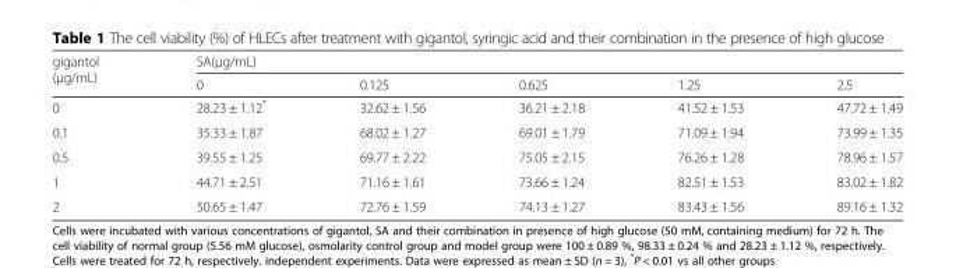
<table><thead><tr><td rowspan="2">gigantol (μg/mL)</td><td colspan="5">SA(μg/mL)</td></tr><tr><td>0</td><td>0.125</td><td>0.625</td><td>1.25</td><td>2.5</td></tr></thead><tbody><tr><td>0</td><td>28.23 ± 1.12*</td><td>32.62 ± 1.56</td><td>36.21 ± 2.18</td><td>41.52 ± 1.53</td><td>47.72 ± 1.49</td></tr><tr><td>0.1</td><td>35.33 ± 1.87</td><td>68.02 ± 1.27</td><td>69.01 ± 1.79</td><td>71.09 ± 1.94</td><td>73.99 ± 1.35</td></tr><tr><td>0.5</td><td>39.55 ± 1.25</td><td>69.77 ± 2.22</td><td>75.05 ± 2.15</td><td>76.26 ± 1.28</td><td>78.96 ± 1.57</td></tr><tr><td>1</td><td>44.71 ± 2.51</td><td>71.16 ± 1.61</td><td>73.66 ± 1.24</td><td>82.51 ± 1.53</td><td>83.02 ± 1.82</td></tr><tr><td>2</td><td>50.65 ± 1.47</td><td>72.76 ± 1.59</td><td>74.13 ± 1.27</td><td>83.43 ± 1.56</td><td>89.16 ± 1.32</td></tr></tbody></table>